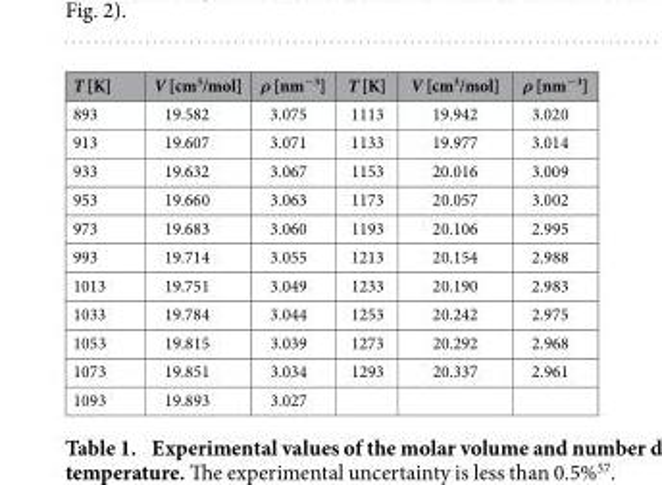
<table><thead><tr><td>T [K]</td><td>V [cm<sup>3</sup>/mol]</td><td>ρ [nm<sup>−3</sup>]</td><td>T [K]</td><td>V [cm<sup>3</sup>/mol]</td><td>ρ [nm<sup>−3</sup>]</td></tr></thead><tbody><tr><td>893</td><td>19.582</td><td>3.075</td><td>1113</td><td>19.942</td><td>3.020</td></tr><tr><td>913</td><td>19.607</td><td>3.071</td><td>1133</td><td>19.977</td><td>3.014</td></tr><tr><td>933</td><td>19.632</td><td>3.067</td><td>1153</td><td>20.016</td><td>3.009</td></tr><tr><td>953</td><td>19.660</td><td>3.063</td><td>1173</td><td>20.057</td><td>3.002</td></tr><tr><td>973</td><td>19.683</td><td>3.060</td><td>1193</td><td>20.106</td><td>2.995</td></tr><tr><td>993</td><td>19.714</td><td>3.055</td><td>1213</td><td>20.154</td><td>2.988</td></tr><tr><td>1013</td><td>19.751</td><td>3.049</td><td>1233</td><td>20.190</td><td>2.983</td></tr><tr><td>1033</td><td>19.784</td><td>3.044</td><td>1253</td><td>20.242</td><td>2.975</td></tr><tr><td>1053</td><td>19.815</td><td>3.039</td><td>1273</td><td>20.292</td><td>2.968</td></tr><tr><td>1073</td><td>19.851</td><td>3.034</td><td>1293</td><td>20.337</td><td>2.961</td></tr><tr><td>1093</td><td>19.893</td><td>3.027</td><td></td><td></td><td></td></tr></tbody></table>